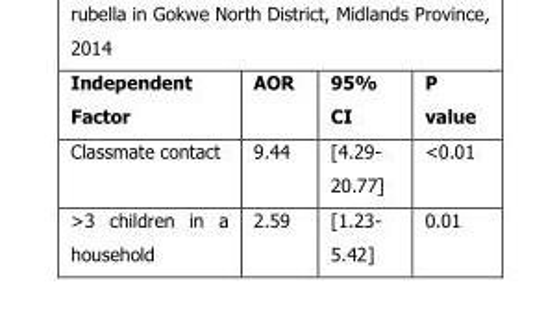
<table><thead><tr><td>Independent Factor</td><td>AOR</td><td>95% CI</td><td>P value</td></tr></thead><tbody><tr><td>Classmate contact</td><td>9.44</td><td>[4.29- 20.77]</td><td>&lt;0.01</td></tr><tr><td>&gt;3 children in a household</td><td>2.59</td><td>[1.23- 5.42]</td><td>0.01</td></tr></tbody></table>